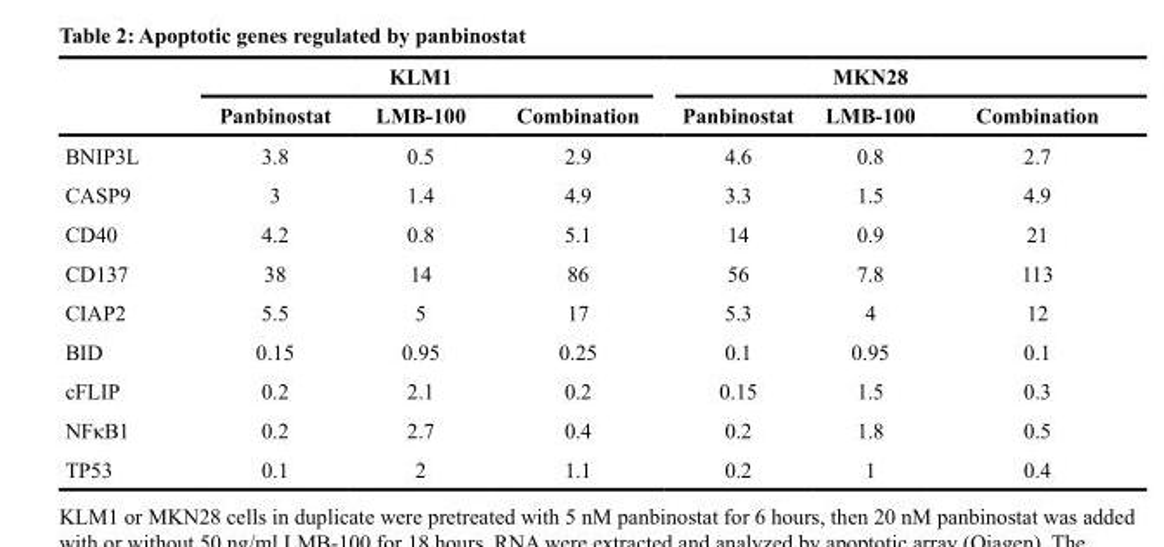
<table><thead><tr><td rowspan="2"></td><td colspan="3">KLM1</td><td colspan="3">MKN28</td></tr><tr><td>Panbinostat</td><td>LMB-100</td><td>Combination</td><td>Panbinostat</td><td>LMB-100</td><td>Combination</td></tr></thead><tbody><tr><td>BNIP3L</td><td>3.8</td><td>0.5</td><td>2.9</td><td>4.6</td><td>0.8</td><td>2.7</td></tr><tr><td>CASP9</td><td>3</td><td>1.4</td><td>4.9</td><td>3.3</td><td>1.5</td><td>4.9</td></tr><tr><td>CD40</td><td>4.2</td><td>0.8</td><td>5.1</td><td>14</td><td>0.9</td><td>21</td></tr><tr><td>CD137</td><td>38</td><td>14</td><td>86</td><td>56</td><td>7.8</td><td>113</td></tr><tr><td>CIAP2</td><td>5.5</td><td>5</td><td>17</td><td>5.3</td><td>4</td><td>12</td></tr><tr><td>BID</td><td>0.15</td><td>0.95</td><td>0.25</td><td>0.1</td><td>0.95</td><td>0.1</td></tr><tr><td>cFLIP</td><td>0.2</td><td>2.1</td><td>0.2</td><td>0.15</td><td>1.5</td><td>0.3</td></tr><tr><td>NFκB1</td><td>0.2</td><td>2.7</td><td>0.4</td><td>0.2</td><td>1.8</td><td>0.5</td></tr><tr><td>TP53</td><td>0.1</td><td>2</td><td>1.1</td><td>0.2</td><td>1</td><td>0.4</td></tr></tbody></table>